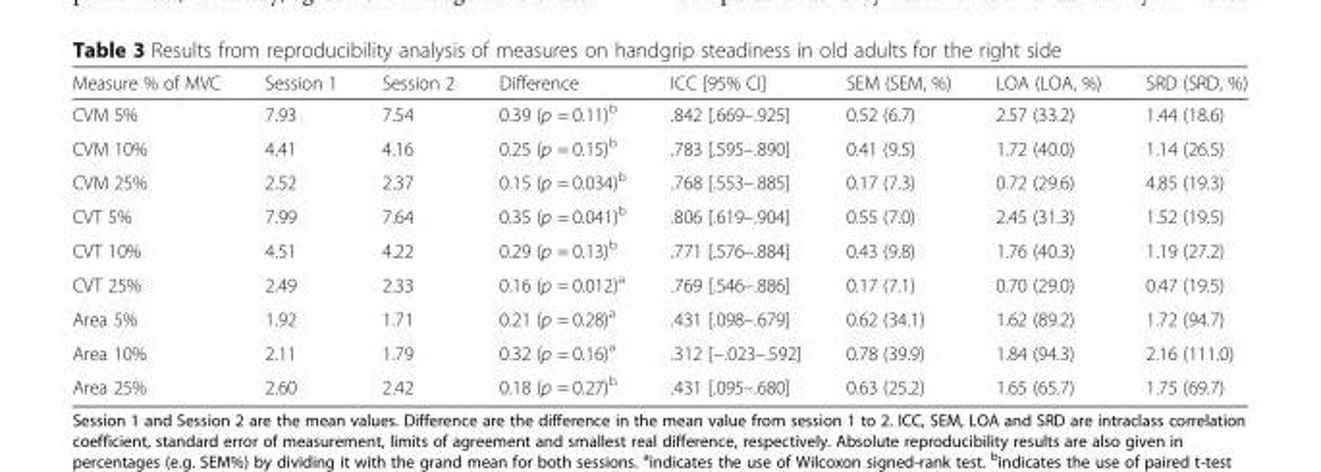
<table><thead><tr><td>Measure % of MVC</td><td>Session 1</td><td>Session 2</td><td>Difference</td><td>ICC [95% CI]</td><td>SEM (SEM, %)</td><td>LOA (LOA, %)</td><td>SRD (SRD, %)</td></tr></thead><tbody><tr><td>CVM 5%</td><td>7.93</td><td>7.54</td><td>0.39 (p = 0.11)<sup>b</sup></td><td>.842 [.669–.925]</td><td>0.52 (6.7)</td><td>2.57 (33.2)</td><td>1.44 (18.6)</td></tr><tr><td>CVM 10%</td><td>4.41</td><td>4.16</td><td>0.25 (p = 0.15)<sup>b</sup></td><td>.783 [.595–.890]</td><td>0.41 (9.5)</td><td>1.72 (40.0)</td><td>1.14 (26.5)</td></tr><tr><td>CVM 25%</td><td>2.52</td><td>2.37</td><td>0.15 (p = 0.034)<sup>b</sup></td><td>.768 [.553–.885]</td><td>0.17 (7.3)</td><td>0.72 (29.6)</td><td>4.85 (19.3)</td></tr><tr><td>CVT 5%</td><td>7.99</td><td>7.64</td><td>0.35 (p = 0.041)<sup>b</sup></td><td>.806 [.619–.904]</td><td>0.55 (7.0)</td><td>2.45 (31.3)</td><td>1.52 (19.5)</td></tr><tr><td>CVT 10%</td><td>4.51</td><td>4.22</td><td>0.29 (p = 0.13)<sup>b</sup></td><td>.771 [.576–.884]</td><td>0.43 (9.8)</td><td>1.76 (40.3)</td><td>1.19 (27.2)</td></tr><tr><td>CVT 25%</td><td>2.49</td><td>2.33</td><td>0.16 (p = 0.012)<sup>a</sup></td><td>.769 [.546–.886]</td><td>0.17 (7.1)</td><td>0.70 (29.0)</td><td>0.47 (19.5)</td></tr><tr><td>Area 5%</td><td>1.92</td><td>1.71</td><td>0.21 (p = 0.28)<sup>a</sup></td><td>.431 [.098–.679]</td><td>0.62 (34.1)</td><td>1.62 (89.2)</td><td>1.72 (94.7)</td></tr><tr><td>Area 10%</td><td>2.11</td><td>1.79</td><td>0.32 (p = 0.16)<sup>a</sup></td><td>.312 [−.023–.592]</td><td>0.78 (39.9)</td><td>1.84 (94.3)</td><td>2.16 (111.0)</td></tr><tr><td>Area 25%</td><td>2.60</td><td>2.42</td><td>0.18 (p = 0.27)<sup>b</sup></td><td>.431 [.095–.680]</td><td>0.63 (25.2)</td><td>1.65 (65.7)</td><td>1.75 (69.7)</td></tr></tbody></table>